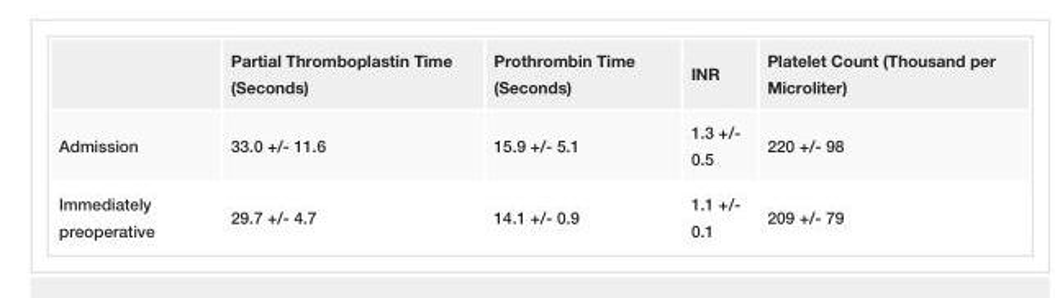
<table><thead><tr><td></td><td>Partial Thromboplastin Time (Seconds)</td><td>Prothrombin Time (Seconds)</td><td>INR</td><td>Platelet Count (Thousand per Microliter)</td></tr></thead><tbody><tr><td>Admission</td><td>33.0 +/- 11.6</td><td>15.9 +/- 5.1</td><td>1.3 +/- 0.5</td><td>220 +/- 98</td></tr><tr><td>Immediately preoperative</td><td>29.7 +/- 4.7</td><td>14.1 +/- 0.9</td><td>1.1 +/- 0.1</td><td>209 +/- 79</td></tr></tbody></table>